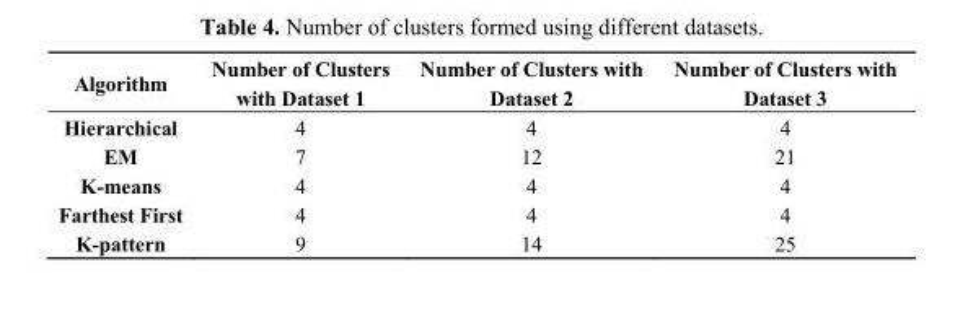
<table><thead><tr><td>Algorithm</td><td>Number of Clusters with Dataset 1</td><td>Number of Clusters with Dataset 2</td><td>Number of Clusters with Dataset 3</td></tr></thead><tbody><tr><td>Hierarchical</td><td>4</td><td>4</td><td>4</td></tr><tr><td>EM</td><td>7</td><td>12</td><td>21</td></tr><tr><td>K-means</td><td>4</td><td>4</td><td>4</td></tr><tr><td>Farthest First</td><td>4</td><td>4</td><td>4</td></tr><tr><td>K-pattern</td><td>9</td><td>14</td><td>25</td></tr></tbody></table>